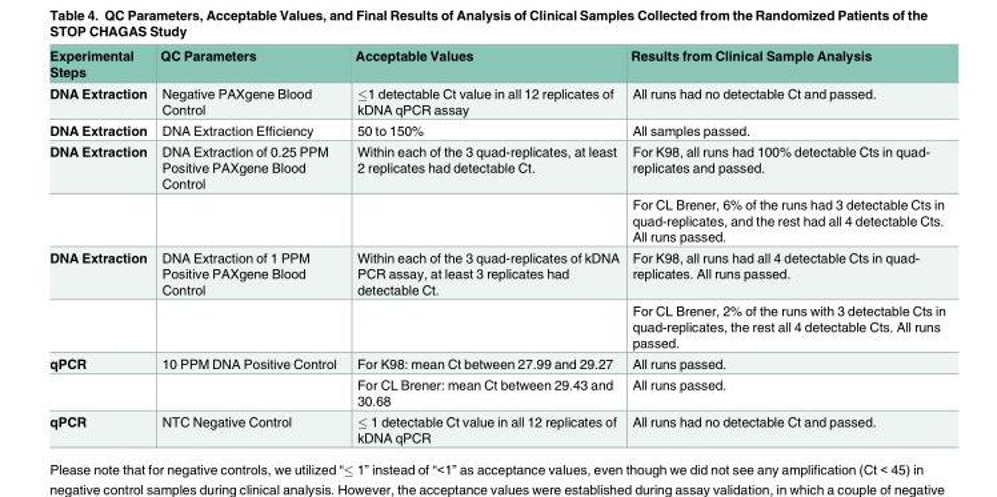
<table><thead><tr><td>Experimental Steps</td><td>QC Parameters</td><td>Acceptable Values</td><td>Results from Clinical Sample Analysis</td></tr></thead><tbody><tr><td>DNA Extraction</td><td>Negative PAXgene Blood Control</td><td>≤1 detectable Ct value in all 12 replicates of kDNA qPCR assay</td><td>All runs had no detectable Ct and passed.</td></tr><tr><td>DNA Extraction</td><td>DNA Extraction Efficiency</td><td>50 to 150%</td><td>All samples passed.</td></tr><tr><td rowspan="2">DNA Extraction</td><td>DNA Extraction of 0.25 PPM Positive PAXgene Blood Control</td><td>Within each of the 3 quad-replicates, at least 2 replicates had detectable Ct.</td><td>For K98, all runs had 100% detectable Cts in quad- replicates and passed.</td></tr><tr><td></td><td></td><td>For CL Brener, 6% of the runs had 3 detectable Cts in quad-replicates, and the rest had all 4 detectable Cts. All runs passed.</td></tr><tr><td rowspan="2">DNA Extraction</td><td>DNA Extraction of 1 PPM Positive PAXgene Blood Control</td><td>Within each of the 3 quad-replicates of kDNA PCR assay, at least 3 replicates had detectable Ct.</td><td>For K98, all runs had all 4 detectable Cts in quad- replicates. All runs passed.</td></tr><tr><td></td><td></td><td>For CL Brener, 2% of the runs with 3 detectable Cts in quad-replicates, the rest all 4 detectable Cts. All runs passed.</td></tr><tr><td rowspan="2">qPCR</td><td>10 PPM DNA Positive Control</td><td>For K98: mean Ct between 27.99 and 29.27</td><td>All runs passed.</td></tr><tr><td></td><td>For CL Brener: mean Ct between 29.43 and 30.68</td><td>All runs passed.</td></tr><tr><td>qPCR</td><td>NTC Negative Control</td><td>≤ 1 detectable Ct value in all 12 replicates of kDNA qPCR</td><td>All runs had no detectable Ct and passed.</td></tr></tbody></table>